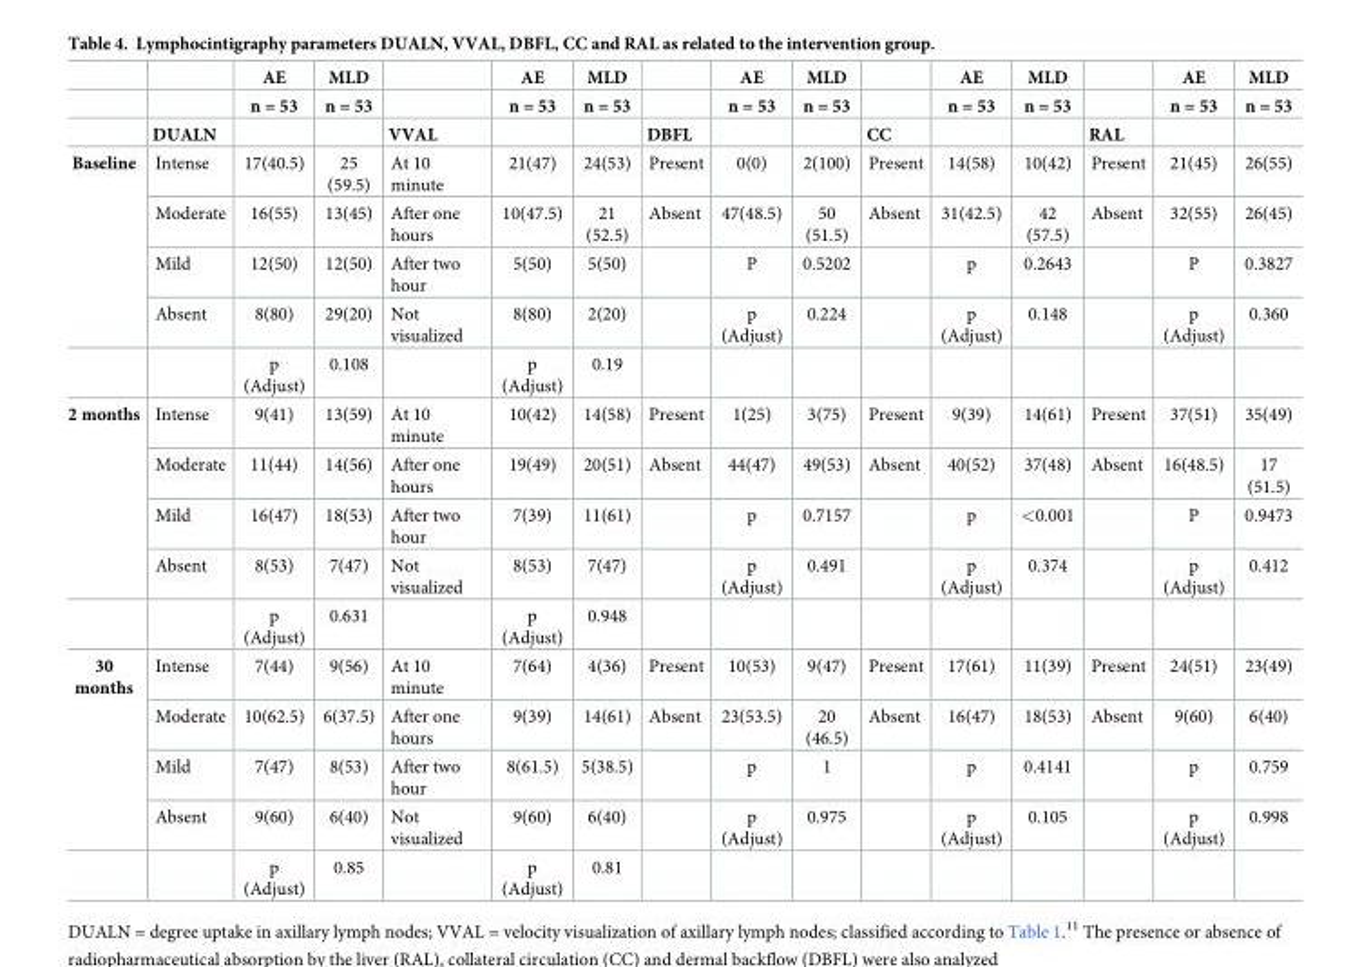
<table><thead><tr><td rowspan="3"></td><td rowspan="3">DUALN</td><td rowspan="3">AE n = 53</td><td rowspan="3">MLD n = 53</td><td rowspan="3">VVAL</td><td rowspan="3">AE n = 53</td><td rowspan="3">MLD n = 53</td><td rowspan="3">DBFL</td><td rowspan="3">AE n = 53</td><td rowspan="3">MLD n = 53</td><td rowspan="3">CC</td><td rowspan="3">AE n = 53</td><td rowspan="3">MLD n = 53</td><td rowspan="3">RAL</td><td rowspan="3">AE n = 53</td><td rowspan="3">MLD n = 53</td></tr><tr></tr><tr></tr></thead><tbody><tr><td rowspan="5">Baseline</td><td>Intense</td><td>17(40.5)</td><td>25 (59.5)</td><td>At 10 minute</td><td>21(47)</td><td>24(53)</td><td>Present</td><td>0(0)</td><td>2(100)</td><td>Present</td><td>14(58)</td><td>10(42)</td><td>Present</td><td>21(45)</td><td>26(55)</td></tr><tr><td>Moderate</td><td>16(55)</td><td>13(45)</td><td>After one hours</td><td>10(47.5)</td><td>21 (52.5)</td><td>Absent</td><td>47(48.5)</td><td>50 (51.5)</td><td>Absent</td><td>31(42.5)</td><td>42 (57.5)</td><td>Absent</td><td>32(55)</td><td>26(45)</td></tr><tr><td>Mild</td><td>12(50)</td><td>12(50)</td><td>After two hour</td><td>5(50)</td><td>5(50)</td><td></td><td>P</td><td>0.5202</td><td></td><td>p</td><td>0.2643</td><td></td><td>P</td><td>0.3827</td></tr><tr><td>Absent</td><td>8(80)</td><td>29(20)</td><td>Not visualized</td><td>8(80)</td><td>2(20)</td><td></td><td>p (Adjust)</td><td>0.224</td><td></td><td>p (Adjust)</td><td>0.148</td><td></td><td>p (Adjust)</td><td>0.360</td></tr><tr><td></td><td>p (Adjust)</td><td>0.108</td><td></td><td>p (Adjust)</td><td>0.19</td><td></td><td></td><td></td><td></td><td></td><td></td><td></td><td></td><td></td></tr><tr><td rowspan="5">2 months</td><td>Intense</td><td>9(41)</td><td>13(59)</td><td>At 10 minute</td><td>10(42)</td><td>14(58)</td><td>Present</td><td>1(25)</td><td>3(75)</td><td>Present</td><td>9(39)</td><td>14(61)</td><td>Present</td><td>37(51)</td><td>35(49)</td></tr><tr><td>Moderate</td><td>11(44)</td><td>14(56)</td><td>After one hours</td><td>19(49)</td><td>20(51)</td><td>Absent</td><td>44(47)</td><td>49(53)</td><td>Absent</td><td>40(52)</td><td>37(48)</td><td>Absent</td><td>16(48.5)</td><td>17 (51.5)</td></tr><tr><td>Mild</td><td>16(47)</td><td>18(53)</td><td>After two hour</td><td>7(39)</td><td>11(61)</td><td></td><td>p</td><td>0.7157</td><td></td><td>p</td><td>&lt;0.001</td><td></td><td>P</td><td>0.9473</td></tr><tr><td>Absent</td><td>8(53)</td><td>7(47)</td><td>Not visualized</td><td>8(53)</td><td>7(47)</td><td></td><td>p (Adjust)</td><td>0.491</td><td></td><td>p (Adjust)</td><td>0.374</td><td></td><td>p (Adjust)</td><td>0.412</td></tr><tr><td></td><td>p (Adjust)</td><td>0.631</td><td></td><td>p (Adjust)</td><td>0.948</td><td></td><td></td><td></td><td></td><td></td><td></td><td></td><td></td><td></td></tr><tr><td rowspan="5">30 months</td><td>Intense</td><td>7(44)</td><td>9(56)</td><td>At 10 minute</td><td>7(64)</td><td>4(36)</td><td>Present</td><td>10(53)</td><td>9(47)</td><td>Present</td><td>17(61)</td><td>11(39)</td><td>Present</td><td>24(51)</td><td>23(49)</td></tr><tr><td>Moderate</td><td>10(62.5)</td><td>6(37.5)</td><td>After one hours</td><td>9(39)</td><td>14(61)</td><td>Absent</td><td>23(53.5)</td><td>20 (46.5)</td><td>Absent</td><td>16(47)</td><td>18(53)</td><td>Absent</td><td>9(60)</td><td>6(40)</td></tr><tr><td>Mild</td><td>7(47)</td><td>8(53)</td><td>After two hour</td><td>8(61.5)</td><td>5(38.5)</td><td></td><td>p</td><td>1</td><td></td><td>p</td><td>0.4141</td><td></td><td>p</td><td>0.759</td></tr><tr><td>Absent</td><td>9(60)</td><td>6(40)</td><td>Not visualized</td><td>9(60)</td><td>6(40)</td><td></td><td>p (Adjust)</td><td>0.975</td><td></td><td>p (Adjust)</td><td>0.105</td><td></td><td>p (Adjust)</td><td>0.998</td></tr><tr><td></td><td>p (Adjust)</td><td>0.85</td><td></td><td>p (Adjust)</td><td>0.81</td><td></td><td></td><td></td><td></td><td></td><td></td><td></td><td></td><td></td></tr></tbody></table>